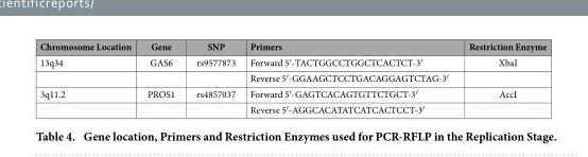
<table><thead><tr><td>Chromosome Location</td><td>Gene</td><td>SNP</td><td>Primers</td><td>Restriction Enzyme</td></tr></thead><tbody><tr><td rowspan="2">13q34</td><td>GAS6</td><td>rs9577873</td><td>Forward 5′ -TACTGGCCTGGCTCACTCT-3′</td><td>XbaI</td></tr><tr><td></td><td></td><td>Reverse 5′ -GGAAGCTCCTGACAGGAGTCTAG-3′</td><td></td></tr><tr><td rowspan="2">3q11.2</td><td>PROS1</td><td>rs4857037</td><td>Forward 5′ -GAGTCACAGTGTTCTGCT-3′</td><td>AccI</td></tr><tr><td></td><td></td><td>Reverse 5′ -AGGCACATATCATCACTCCT-3′</td><td></td></tr></tbody></table>